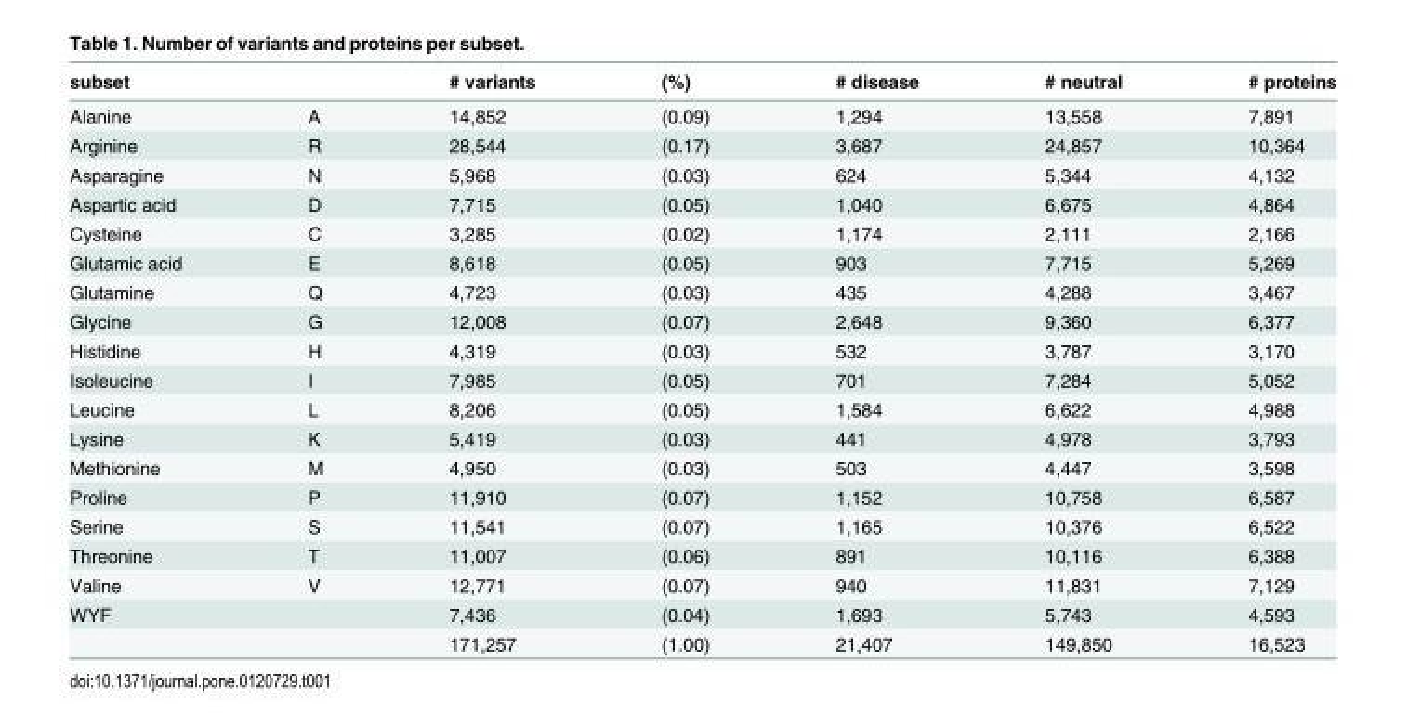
<table><thead><tr><td>subset</td><td></td><td># variants</td><td>(%)</td><td># disease</td><td># neutral</td><td># proteins</td></tr></thead><tbody><tr><td>Alanine</td><td>A</td><td>14,852</td><td>(0.09)</td><td>1,294</td><td>13,558</td><td>7,891</td></tr><tr><td>Arginine</td><td>R</td><td>28,544</td><td>(0.17)</td><td>3,687</td><td>24,857</td><td>10,364</td></tr><tr><td>Asparagine</td><td>N</td><td>5,968</td><td>(0.03)</td><td>624</td><td>5,344</td><td>4,132</td></tr><tr><td>Aspartic acid</td><td>D</td><td>7,715</td><td>(0.05)</td><td>1,040</td><td>6,675</td><td>4,864</td></tr><tr><td>Cysteine</td><td>C</td><td>3,285</td><td>(0.02)</td><td>1,174</td><td>2,111</td><td>2,166</td></tr><tr><td>Glutamic acid</td><td>E</td><td>8,618</td><td>(0.05)</td><td>903</td><td>7,715</td><td>5,269</td></tr><tr><td>Glutamine</td><td>Q</td><td>4,723</td><td>(0.03)</td><td>435</td><td>4,288</td><td>3,467</td></tr><tr><td>Glycine</td><td>G</td><td>12,008</td><td>(0.07)</td><td>2,648</td><td>9,360</td><td>6,377</td></tr><tr><td>Histidine</td><td>H</td><td>4,319</td><td>(0.03)</td><td>532</td><td>3,787</td><td>3,170</td></tr><tr><td>Isoleucine</td><td>I</td><td>7,985</td><td>(0.05)</td><td>701</td><td>7,284</td><td>5,052</td></tr><tr><td>Leucine</td><td>L</td><td>8,206</td><td>(0.05)</td><td>1,584</td><td>6,622</td><td>4,988</td></tr><tr><td>Lysine</td><td>K</td><td>5,419</td><td>(0.03)</td><td>441</td><td>4,978</td><td>3,793</td></tr><tr><td>Methionine</td><td>M</td><td>4,950</td><td>(0.03)</td><td>503</td><td>4,447</td><td>3,598</td></tr><tr><td>Proline</td><td>P</td><td>11,910</td><td>(0.07)</td><td>1,152</td><td>10,758</td><td>6,587</td></tr><tr><td>Serine</td><td>S</td><td>11,541</td><td>(0.07)</td><td>1,165</td><td>10,376</td><td>6,522</td></tr><tr><td>Threonine</td><td>T</td><td>11,007</td><td>(0.06)</td><td>891</td><td>10,116</td><td>6,388</td></tr><tr><td>Valine</td><td>V</td><td>12,771</td><td>(0.07)</td><td>940</td><td>11,831</td><td>7,129</td></tr><tr><td rowspan="2">WYF</td><td></td><td>7,436</td><td>(0.04)</td><td>1,693</td><td>5,743</td><td>4,593</td></tr><tr><td></td><td>171,257</td><td>(1.00)</td><td>21,407</td><td>149,850</td><td>16,523</td></tr></tbody></table>